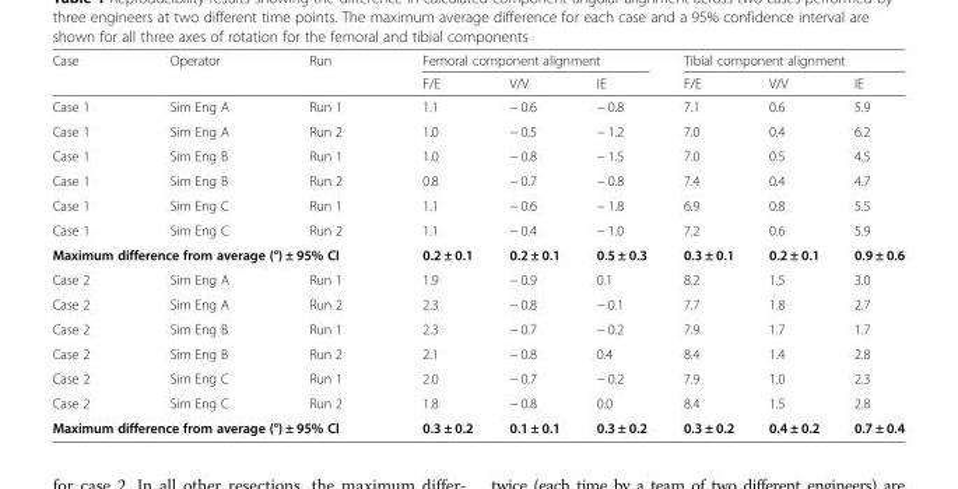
<table><thead><tr><td rowspan="2">Case</td><td rowspan="2">Operator</td><td rowspan="2">Run</td><td colspan="3">Femoral component alignment</td><td colspan="3">Tibial component alignment</td></tr><tr><td>F/E</td><td>V/V</td><td>IE</td><td>F/E</td><td>V/V</td><td>IE</td></tr></thead><tbody><tr><td>Case 1</td><td>Sim Eng A</td><td>Run 1</td><td>1.1</td><td>− 0.6</td><td>− 0.8</td><td>7.1</td><td>0.6</td><td>5.9</td></tr><tr><td>Case 1</td><td>Sim Eng A</td><td>Run 2</td><td>1.0</td><td>− 0.5</td><td>− 1.2</td><td>7.0</td><td>0.4</td><td>6.2</td></tr><tr><td>Case 1</td><td>Sim Eng B</td><td>Run 1</td><td>1.0</td><td>− 0.8</td><td>− 1.5</td><td>7.0</td><td>0.5</td><td>4.5</td></tr><tr><td>Case 1</td><td>Sim Eng B</td><td>Run 2</td><td>0.8</td><td>− 0.7</td><td>− 0.8</td><td>7.4</td><td>0.4</td><td>4.7</td></tr><tr><td>Case 1</td><td>Sim Eng C</td><td>Run 1</td><td>1.1</td><td>− 0.6</td><td>− 1.8</td><td>6.9</td><td>0.8</td><td>5.5</td></tr><tr><td>Case 1</td><td>Sim Eng C</td><td>Run 2</td><td>1.1</td><td>− 0.4</td><td>− 1.0</td><td>7.2</td><td>0.6</td><td>5.9</td></tr><tr><td colspan="3">Maximum difference from average (°) ± 95% CI</td><td>0.2 ± 0.1</td><td>0.2 ± 0.1</td><td>0.5 ± 0.3</td><td>0.3 ± 0.1</td><td>0.2 ± 0.1</td><td>0.9 ± 0.6</td></tr><tr><td>Case 2</td><td>Sim Eng A</td><td>Run 1</td><td>1.9</td><td>− 0.9</td><td>0.1</td><td>8.2</td><td>1.5</td><td>3.0</td></tr><tr><td>Case 2</td><td>Sim Eng A</td><td>Run 2</td><td>2.3</td><td>− 0.8</td><td>− 0.1</td><td>7.7</td><td>1.8</td><td>2.7</td></tr><tr><td>Case 2</td><td>Sim Eng B</td><td>Run 1</td><td>2.3</td><td>− 0.7</td><td>− 0.2</td><td>7.9</td><td>1.7</td><td>1.7</td></tr><tr><td>Case 2</td><td>Sim Eng B</td><td>Run 2</td><td>2.1</td><td>− 0.8</td><td>0.4</td><td>8.4</td><td>1.4</td><td>2.8</td></tr><tr><td>Case 2</td><td>Sim Eng C</td><td>Run 1</td><td>2.0</td><td>− 0.7</td><td>− 0.2</td><td>7.9</td><td>1.0</td><td>2.3</td></tr><tr><td>Case 2</td><td>Sim Eng C</td><td>Run 2</td><td>1.8</td><td>− 0.8</td><td>0.0</td><td>8.4</td><td>1.5</td><td>2.8</td></tr><tr><td colspan="3">Maximum difference from average (°) ± 95% CI</td><td>0.3 ± 0.2</td><td>0.1 ± 0.1</td><td>0.3 ± 0.2</td><td>0.3 ± 0.2</td><td>0.4 ± 0.2</td><td>0.7 ± 0.4</td></tr></tbody></table>